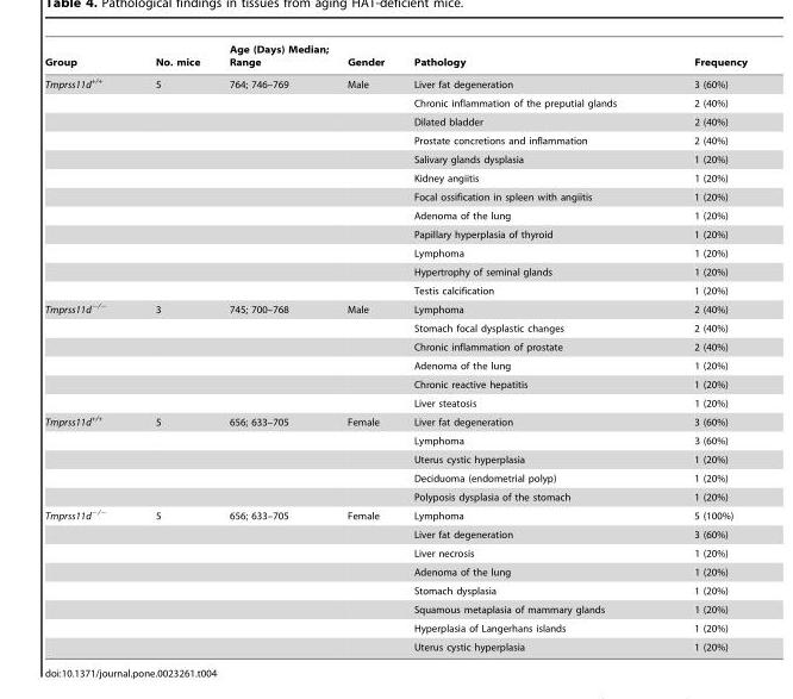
<table><thead><tr><td>Group</td><td>No. mice</td><td>Age (Days) Median; Range</td><td>Gender</td><td>Pathology</td><td>Frequency</td></tr></thead><tbody><tr><td rowspan="12">Tmprss11d<sup>+/+</sup></td><td>5</td><td>764; 746–769</td><td>Male</td><td>Liver fat degeneration</td><td>3 (60%)</td></tr><tr><td></td><td></td><td></td><td>Chronic inflammation of the preputial glands</td><td>2 (40%)</td></tr><tr><td></td><td></td><td></td><td>Dilated bladder</td><td>2 (40%)</td></tr><tr><td></td><td></td><td></td><td>Prostate concretions and inflammation</td><td>2 (40%)</td></tr><tr><td></td><td></td><td></td><td>Salivary glands dysplasia</td><td>1 (20%)</td></tr><tr><td></td><td></td><td></td><td>Kidney angiitis</td><td>1 (20%)</td></tr><tr><td></td><td></td><td></td><td>Focal ossification in spleen with angiitis</td><td>1 (20%)</td></tr><tr><td></td><td></td><td></td><td>Adenoma of the lung</td><td>1 (20%)</td></tr><tr><td></td><td></td><td></td><td>Papillary hyperplasia of thyroid</td><td>1 (20%)</td></tr><tr><td></td><td></td><td></td><td>Lymphoma</td><td>1 (20%)</td></tr><tr><td></td><td></td><td></td><td>Hypertrophy of seminal glands</td><td>1 (20%)</td></tr><tr><td></td><td></td><td></td><td>Testis calcification</td><td>1 (20%)</td></tr><tr><td rowspan="6">Tmprss11d<sup>−/−</sup></td><td>3</td><td>745; 700–768</td><td>Male</td><td>Lymphoma</td><td>2 (40%)</td></tr><tr><td></td><td></td><td></td><td>Stomach focal dysplastic changes</td><td>2 (40%)</td></tr><tr><td></td><td></td><td></td><td>Chronic inflammation of prostate</td><td>2 (40%)</td></tr><tr><td></td><td></td><td></td><td>Adenoma of the lung</td><td>1 (20%)</td></tr><tr><td></td><td></td><td></td><td>Chronic reactive hepatitis</td><td>1 (20%)</td></tr><tr><td></td><td></td><td></td><td>Liver steatosis</td><td>1 (20%)</td></tr><tr><td rowspan="5">Tmprss11d<sup>+/+</sup></td><td>5</td><td>656; 633–705</td><td>Female</td><td>Liver fat degeneration</td><td>3 (60%)</td></tr><tr><td></td><td></td><td></td><td>Lymphoma</td><td>3 (60%)</td></tr><tr><td></td><td></td><td></td><td>Uterus cystic hyperplasia</td><td>1 (20%)</td></tr><tr><td></td><td></td><td></td><td>Deciduoma (endometrial polyp)</td><td>1 (20%)</td></tr><tr><td></td><td></td><td></td><td>Polyposis dysplasia of the stomach</td><td>1 (20%)</td></tr><tr><td rowspan="8">Tmprss11d<sup>−/−</sup></td><td>5</td><td>656; 633–705</td><td>Female</td><td>Lymphoma</td><td>5 (100%)</td></tr><tr><td></td><td></td><td></td><td>Liver fat degeneration</td><td>3 (60%)</td></tr><tr><td></td><td></td><td></td><td>Liver necrosis</td><td>1 (20%)</td></tr><tr><td></td><td></td><td></td><td>Adenoma of the lung</td><td>1 (20%)</td></tr><tr><td></td><td></td><td></td><td>Stomach dysplasia</td><td>1 (20%)</td></tr><tr><td></td><td></td><td></td><td>Squamous metaplasia of mammary glands</td><td>1 (20%)</td></tr><tr><td></td><td></td><td></td><td>Hyperplasia of Langerhans islands</td><td>1 (20%)</td></tr><tr><td></td><td></td><td></td><td>Uterus cystic hyperplasia</td><td>1 (20%)</td></tr></tbody></table>